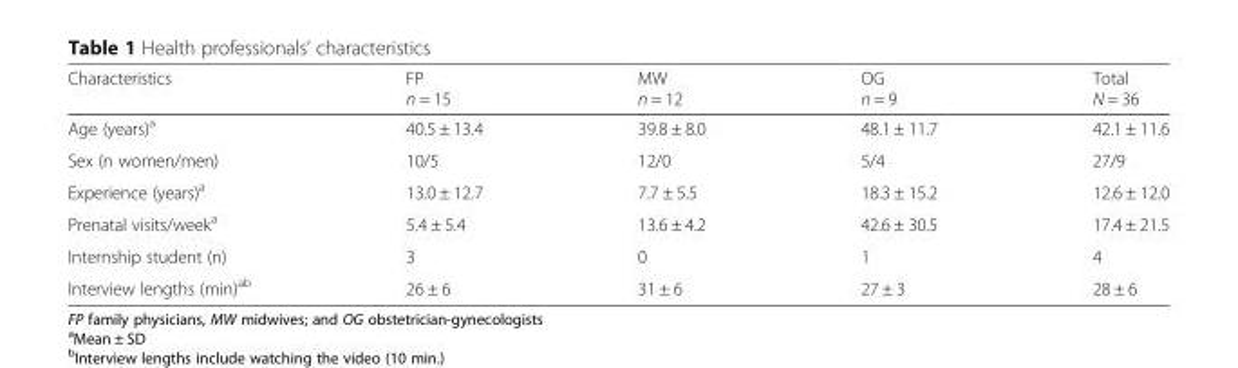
<table><thead><tr><td>Characteristics</td><td>FP n = 15</td><td>MW n = 12</td><td>OG n = 9</td><td>Total N = 36</td></tr></thead><tbody><tr><td>Age (years)<sup>a</sup></td><td>40.5 ± 13.4</td><td>39.8 ± 8.0</td><td>48.1 ± 11.7</td><td>42.1 ± 11.6</td></tr><tr><td>Sex (n women/men)</td><td>10/5</td><td>12/0</td><td>5/4</td><td>27/9</td></tr><tr><td>Experience (years)<sup>a</sup></td><td>13.0 ± 12.7</td><td>7.7 ± 5.5</td><td>18.3 ± 15.2</td><td>12.6 ± 12.0</td></tr><tr><td>Prenatal visits/week<sup>a</sup></td><td>5.4 ± 5.4</td><td>13.6 ± 4.2</td><td>42.6 ± 30.5</td><td>17.4 ± 21.5</td></tr><tr><td>Internship student (n)</td><td>3</td><td>0</td><td>1</td><td>4</td></tr><tr><td>Interview lengths (min)<sup>ab</sup></td><td>26 ± 6</td><td>31 ± 6</td><td>27 ± 3</td><td>28 ± 6</td></tr></tbody></table>